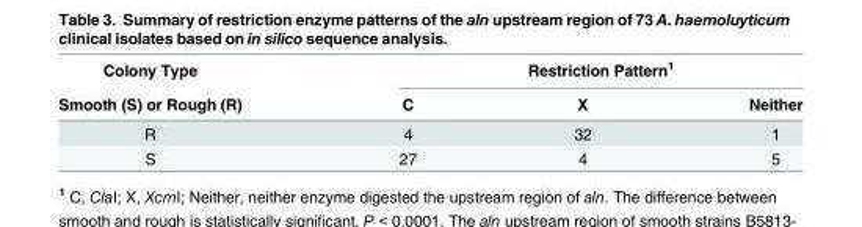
<table><thead><tr><td rowspan="2">Colony Type Smooth (S) or Rough (R)</td><td colspan="3">Restriction Pattern<sup>1</sup></td></tr><tr><td>C</td><td>X</td><td>Neither</td></tr></thead><tbody><tr><td>R</td><td>4</td><td>32</td><td>1</td></tr><tr><td>S</td><td>27</td><td>4</td><td>5</td></tr></tbody></table>